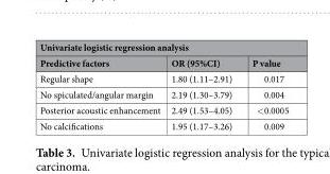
<table><thead><tr><td colspan="3">Univariate logistic regression analysis</td></tr><tr><td>Predictive factors</td><td>OR (95%CI)</td><td>P value</td></tr></thead><tbody><tr><td>Regular shape</td><td>1.80 (1.11–2.91)</td><td>0.017</td></tr><tr><td>No spiculated/angular margin</td><td>2.19 (1.30–3.79)</td><td>0.004</td></tr><tr><td>Posterior acoustic enhancement</td><td>2.49 (1.53–4.05)</td><td>&lt;0.0005</td></tr><tr><td>No calcifications</td><td>1.95 (1.17–3.26)</td><td>0.009</td></tr></tbody></table>